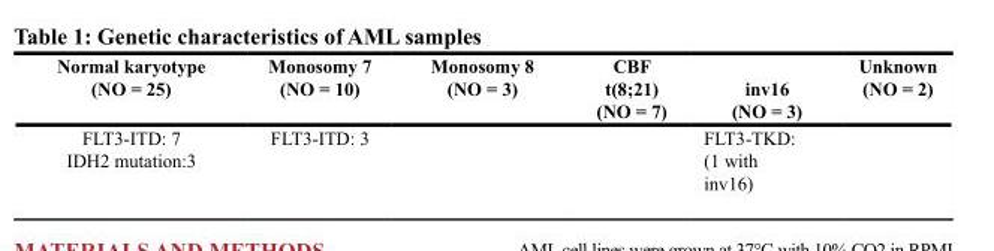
<table><thead><tr><td>Normal karyotype (NO = 25)</td><td>Monosomy 7 (NO = 10)</td><td>Monosomy 8 (NO = 3)</td><td>CBF t(8;21) (NO = 7)</td><td>inv16 (NO = 3)</td><td>Unknown (NO = 2)</td></tr></thead><tbody><tr><td>FLT3-ITD: 7 IDH2 mutation:3</td><td>FLT3-ITD: 3</td><td></td><td></td><td>FLT3-TKD: (1 with inv16)</td><td></td></tr></tbody></table>